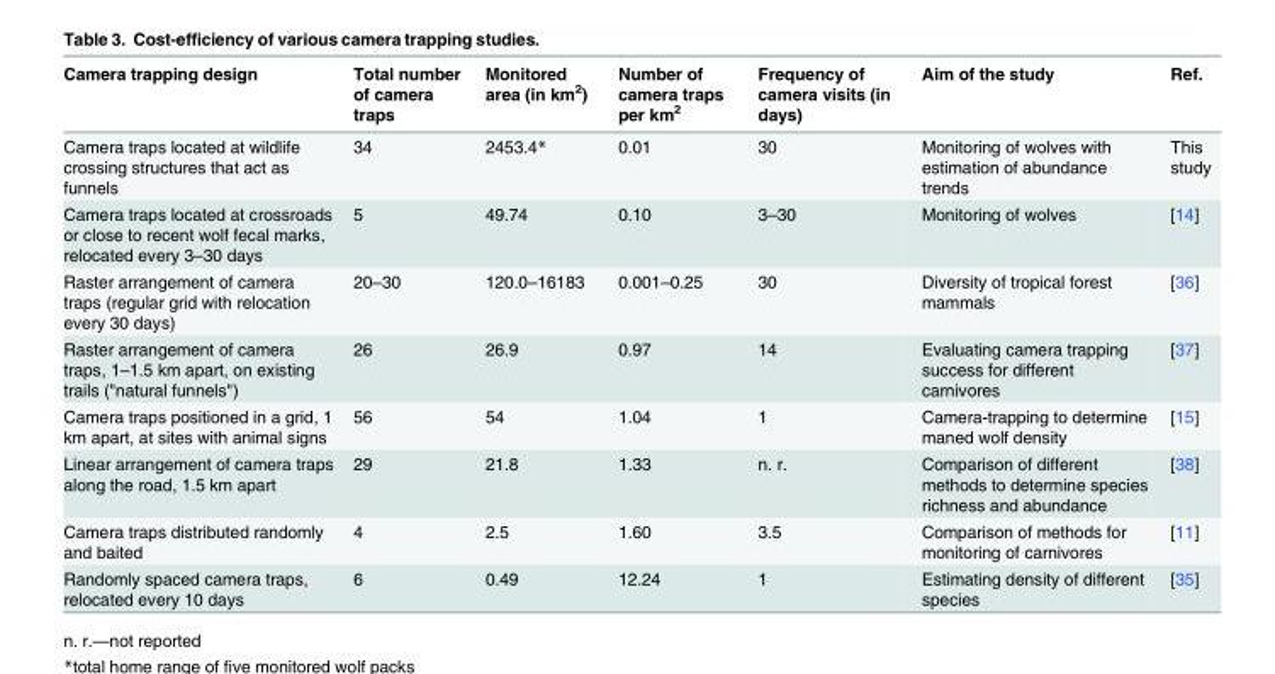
<table><thead><tr><td>Camera trapping design</td><td>Total number of camera traps</td><td>Monitored area (in km<sup>2</sup>)</td><td>Number of camera traps per km<sup>2</sup></td><td>Frequency of camera visits (in days)</td><td>Aim of the study</td><td>Ref.</td></tr></thead><tbody><tr><td>Camera traps located at wildlife crossing structures that act as funnels</td><td>34</td><td>2453.4*</td><td>0.01</td><td>30</td><td>Monitoring of wolves with estimation of abundance trends</td><td>This study</td></tr><tr><td>Camera traps located at crossroads or close to recent wolf fecal marks, relocated every 3–30 days</td><td>5</td><td>49.74</td><td>0.10</td><td>3–30</td><td>Monitoring of wolves</td><td>[14]</td></tr><tr><td>Raster arrangement of camera traps (regular grid with relocation every 30 days)</td><td>20–30</td><td>120.0–16183</td><td>0.001–0.25</td><td>30</td><td>Diversity of tropical forest mammals</td><td>[36]</td></tr><tr><td>Raster arrangement of camera traps, 1–1.5 km apart, on existing trails (&quot;natural funnels&quot;)</td><td>26</td><td>26.9</td><td>0.97</td><td>14</td><td>Evaluating camera trapping success for different carnivores</td><td>[37]</td></tr><tr><td>Camera traps positioned in a grid, 1 km apart, at sites with animal signs</td><td>56</td><td>54</td><td>1.04</td><td>1</td><td>Camera-trapping to determine maned wolf density</td><td>[15]</td></tr><tr><td>Linear arrangement of camera traps along the road, 1.5 km apart</td><td>29</td><td>21.8</td><td>1.33</td><td>n. r.</td><td>Comparison of different methods to determine species richness and abundance</td><td>[38]</td></tr><tr><td>Camera traps distributed randomly and baited</td><td>4</td><td>2.5</td><td>1.60</td><td>3.5</td><td>Comparison of methods for monitoring of carnivores</td><td>[11]</td></tr><tr><td>Randomly spaced camera traps, relocated every 10 days</td><td>6</td><td>0.49</td><td>12.24</td><td>1</td><td>Estimating density of different species</td><td>[35]</td></tr></tbody></table>